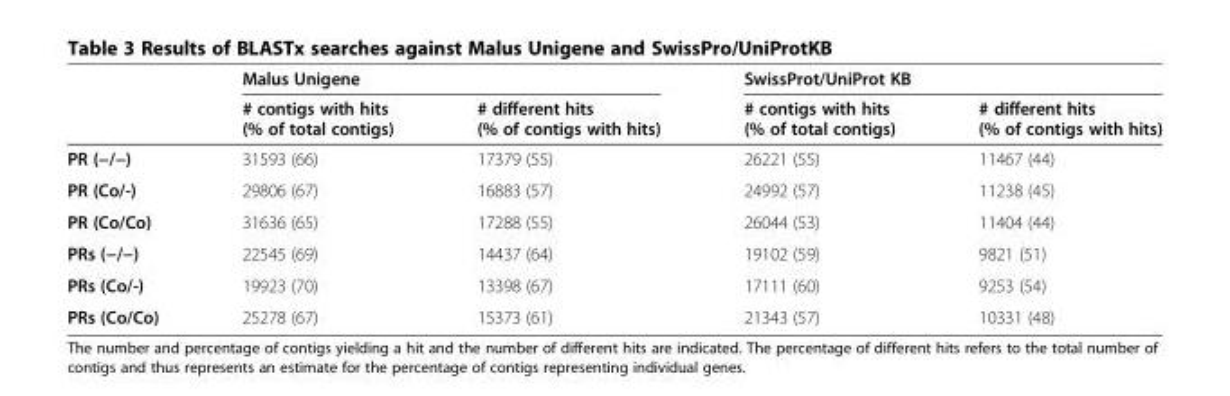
<table><thead><tr><td rowspan="2"></td><td colspan="2">Malus Unigene</td><td colspan="2">SwissProt/UniProt KB</td></tr><tr><td># contigs with hits (% of total contigs)</td><td># different hits (% of contigs with hits)</td><td># contigs with hits (% of total contigs)</td><td># different hits (% of contigs with hits)</td></tr></thead><tbody><tr><td>PR (−/−)</td><td>31593 (66)</td><td>17379 (55)</td><td>26221 (55)</td><td>11467 (44)</td></tr><tr><td>PR (Co/-)</td><td>29806 (67)</td><td>16883 (57)</td><td>24992 (57)</td><td>11238 (45)</td></tr><tr><td>PR (Co/Co)</td><td>31636 (65)</td><td>17288 (55)</td><td>26044 (53)</td><td>11404 (44)</td></tr><tr><td>PRs (−/−)</td><td>22545 (69)</td><td>14437 (64)</td><td>19102 (59)</td><td>9821 (51)</td></tr><tr><td>PRs (Co/-)</td><td>19923 (70)</td><td>13398 (67)</td><td>17111 (60)</td><td>9253 (54)</td></tr><tr><td>PRs (Co/Co)</td><td>25278 (67)</td><td>15373 (61)</td><td>21343 (57)</td><td>10331 (48)</td></tr></tbody></table>